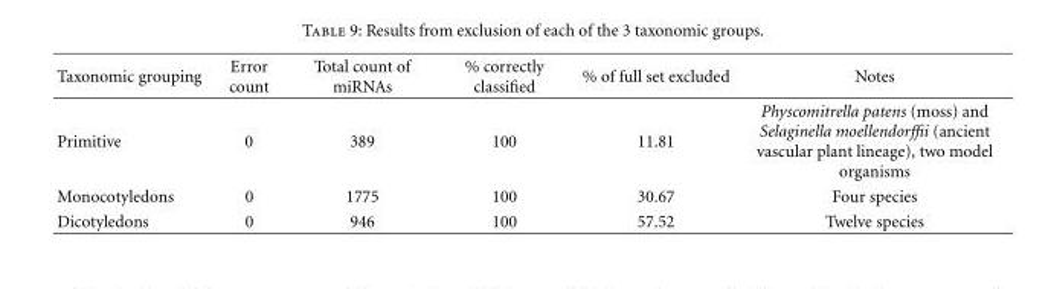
<table><thead><tr><td>Taxonomic grouping</td><td>Error count</td><td>Total count of miRNAs</td><td>% correctly classified</td><td>% of full set excluded</td><td>Notes</td></tr></thead><tbody><tr><td>Primitive</td><td>0</td><td>389</td><td>100</td><td>11.81</td><td>Physcomitrella patens (moss) and Selaginella moellendorffii (ancient vascular plant lineage), two model organisms</td></tr><tr><td>Monocotyledons</td><td>0</td><td>1775</td><td>100</td><td>30.67</td><td>Four species</td></tr><tr><td>Dicotyledons</td><td>0</td><td>946</td><td>100</td><td>57.52</td><td>Twelve species</td></tr></tbody></table>